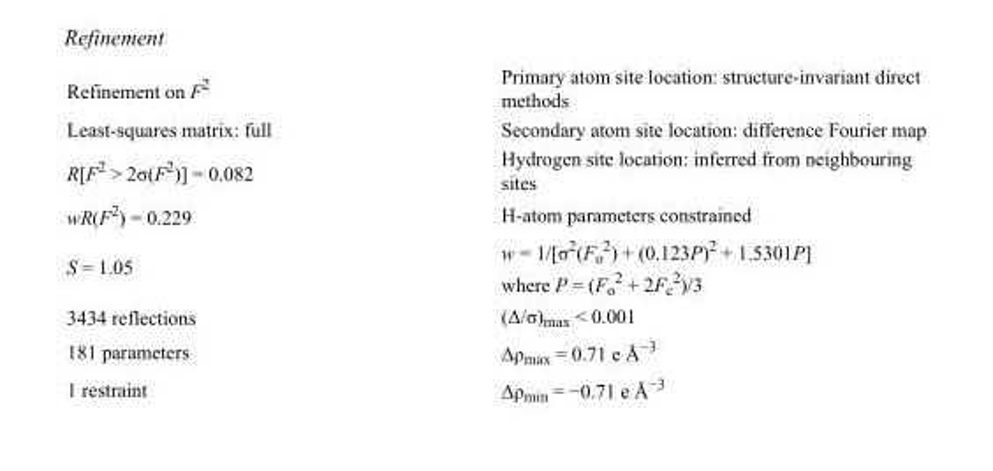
<table><tbody><tr><td>Refinement on F<sup>2</sup></td><td>Primary atom site location: structure-invariant direct methods</td></tr><tr><td>Least-squares matrix: full</td><td>Secondary atom site location: difference Fourier map</td></tr><tr><td>R[F<sup>2</sup> &gt; 2σ(F<sup>2</sup>)] = 0.082</td><td>Hydrogen site location: inferred from neighbouring sites</td></tr><tr><td>wR(F<sup>2</sup>) = 0.229</td><td>H-atom parameters constrained</td></tr><tr><td>S = 1.05</td><td>w = 1/[σ<sup>2</sup>(F<sub>o</sub> <sup>2</sup>) + (0.123P)<sup>2</sup> + 1.5301P] where P = (F<sub>o</sub> <sup>2</sup> + 2F<sub>c</sub> <sup>2</sup>)/3</td></tr><tr><td>3434 reflections</td><td>(Δ/σ)<sub>max</sub> &lt; 0.001</td></tr><tr><td>181 parameters</td><td>Δρ<sub>max</sub> = 0.71 e Å<sup>−3</sup></td></tr><tr><td>1 restraint</td><td>Δρ<sub>min</sub> = −0.71 e Å<sup>−3</sup></td></tr></tbody></table>